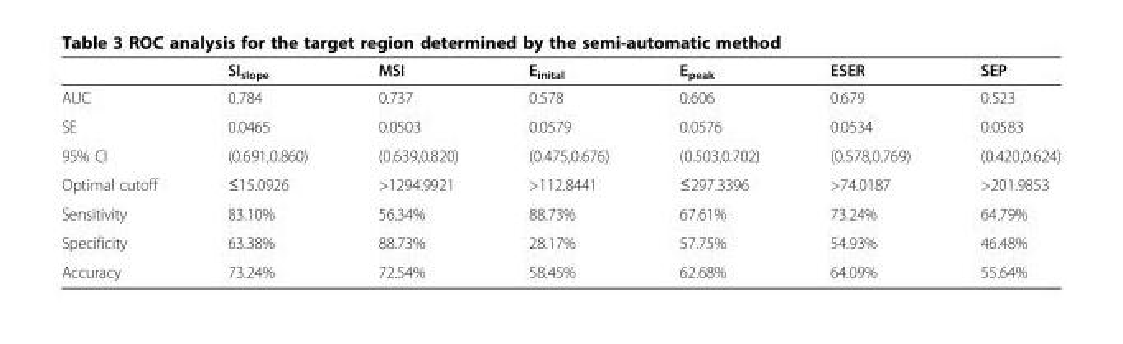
<table><thead><tr><td></td><td>SI<sub>slope</sub></td><td>MSI</td><td>E<sub>inital</sub></td><td>E<sub>peak</sub></td><td>ESER</td><td>SEP</td></tr></thead><tbody><tr><td>AUC</td><td>0.784</td><td>0.737</td><td>0.578</td><td>0.606</td><td>0.679</td><td>0.523</td></tr><tr><td>SE</td><td>0.0465</td><td>0.0503</td><td>0.0579</td><td>0.0576</td><td>0.0534</td><td>0.0583</td></tr><tr><td>95% CI</td><td>(0.691,0.860)</td><td>(0.639,0.820)</td><td>(0.475,0.676)</td><td>(0.503,0.702)</td><td>(0.578,0.769)</td><td>(0.420,0.624)</td></tr><tr><td>Optimal cutoff</td><td>≤15.0926</td><td>&gt;1294.9921</td><td>&gt;112.8441</td><td>≤297.3396</td><td>&gt;74.0187</td><td>&gt;201.9853</td></tr><tr><td>Sensitivity</td><td>83.10%</td><td>56.34%</td><td>88.73%</td><td>67.61%</td><td>73.24%</td><td>64.79%</td></tr><tr><td>Specificity</td><td>63.38%</td><td>88.73%</td><td>28.17%</td><td>57.75%</td><td>54.93%</td><td>46.48%</td></tr><tr><td>Accuracy</td><td>73.24%</td><td>72.54%</td><td>58.45%</td><td>62.68%</td><td>64.09%</td><td>55.64%</td></tr></tbody></table>